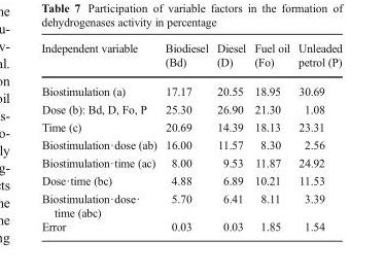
<table><thead><tr><td>Independent variable</td><td>Biodiesel (Bd)</td><td>Diesel (D)</td><td>Fuel oil (Fo)</td><td>Unleaded petrol (P)</td></tr></thead><tbody><tr><td>Biostimulation (a)</td><td>17.17</td><td>20.55</td><td>18.95</td><td>30.69</td></tr><tr><td>Dose (b): Bd, D, Fo, P</td><td>25.30</td><td>26.90</td><td>21.30</td><td>1.08</td></tr><tr><td>Time (c)</td><td>20.69</td><td>14.39</td><td>18.13</td><td>23.31</td></tr><tr><td>Biostimulation·dose (ab)</td><td>16.00</td><td>11.57</td><td>8.30</td><td>2.56</td></tr><tr><td>Biostimulation·time (ac)</td><td>8.00</td><td>9.53</td><td>11.87</td><td>24.92</td></tr><tr><td>Dose·time (bc)</td><td>4.88</td><td>6.89</td><td>10.21</td><td>11.53</td></tr><tr><td>Biostimulation·dose· time (abc)</td><td>5.70</td><td>6.41</td><td>8.11</td><td>3.39</td></tr><tr><td>Error</td><td>0.03</td><td>0.03</td><td>1.85</td><td>1.54</td></tr></tbody></table>